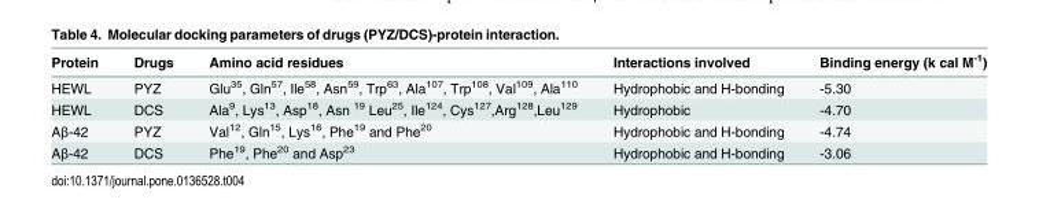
<table><thead><tr><td>Protein</td><td>Drugs</td><td>Amino acid residues</td><td>Interactions involved</td><td>Binding energy (k cal M<sup>-1</sup>)</td></tr></thead><tbody><tr><td>HEWL</td><td>PYZ</td><td>Glu<sup>35</sup>, Gln<sup>57</sup>, Ile<sup>58</sup>, Asn<sup>59</sup>, Trp<sup>63</sup>, Ala<sup>107</sup>, Trp<sup>108</sup>, Val<sup>109</sup>, Ala<sup>110</sup></td><td>Hydrophobic and H-bonding</td><td>-5.30</td></tr><tr><td>HEWL</td><td>DCS</td><td>Ala<sup>9</sup>, Lys<sup>13</sup>, Asp<sup>18</sup>, Asn <sup>19</sup> Leu<sup>25</sup>, Ile<sup>124</sup>, Cys<sup>127</sup>,Arg<sup>128</sup>,Leu<sup>129</sup></td><td>Hydrophobic</td><td>-4.70</td></tr><tr><td>Aβ-42</td><td>PYZ</td><td>Val<sup>12</sup>, Gln<sup>15</sup>, Lys<sup>16</sup>, Phe<sup>19</sup> and Phe<sup>20</sup></td><td>Hydrophobic and H-bonding</td><td>-4.74</td></tr><tr><td>Aβ-42</td><td>DCS</td><td>Phe<sup>19</sup>, Phe<sup>20</sup> and Asp<sup>23</sup></td><td>Hydrophobic and H-bonding</td><td>-3.06</td></tr></tbody></table>